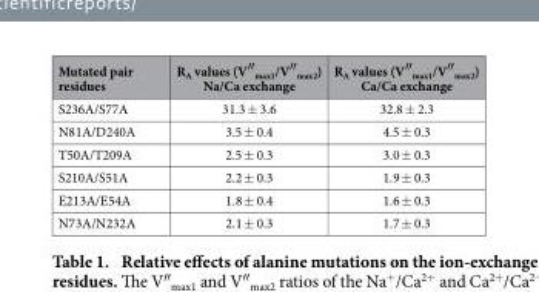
<table><thead><tr><td>Mutated pair residues</td><td>R<sub>A</sub> values (V″<sub>max1</sub>/V″<sub>max2</sub>) Na/Ca exchange</td><td>R<sub>A</sub> values (V″<sub>max1</sub>/V″<sub>max2</sub>) Ca/Ca exchange</td></tr></thead><tbody><tr><td>S236A/S77A</td><td>31.3 ± 3.6</td><td>32.8 ± 2.3</td></tr><tr><td>N81A/D240A</td><td>3.5 ± 0.4</td><td>4.5 ± 0.3</td></tr><tr><td>T50A/T209A</td><td>2.5 ± 0.3</td><td>3.0 ± 0.3</td></tr><tr><td>S210A/S51A</td><td>2.2 ± 0.3</td><td>1.9 ± 0.3</td></tr><tr><td>E213A/E54A</td><td>1.8 ± 0.4</td><td>1.6 ± 0.3</td></tr><tr><td>N73A/N232A</td><td>2.1 ± 0.3</td><td>1.7 ± 0.3</td></tr></tbody></table>